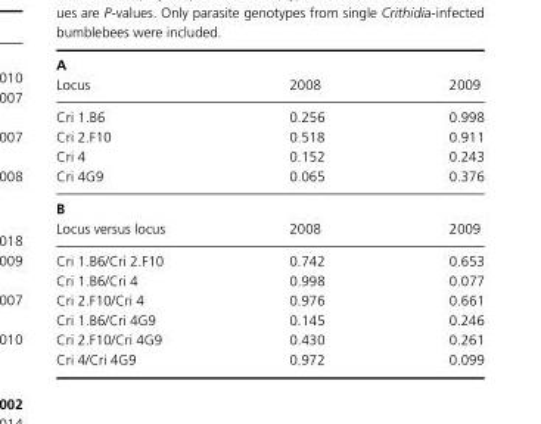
<table><thead><tr><td colspan="3">A</td></tr><tr><td>Locus</td><td>2008</td><td>2009</td></tr></thead><tbody><tr><td>Cri 1.B6</td><td>0.256</td><td>0.998</td></tr><tr><td>Cri 2.F10</td><td>0.518</td><td>0.911</td></tr><tr><td>Cri 4</td><td>0.152</td><td>0.243</td></tr><tr><td>Cri 4G9</td><td>0.065</td><td>0.376</td></tr><tr><td colspan="3">B</td></tr><tr><td>Locus versus locus</td><td>2008</td><td>2009</td></tr><tr><td>Cri 1.B6/Cri 2.F10</td><td>0.742</td><td>0.653</td></tr><tr><td>Cri 1.B6/Cri 4</td><td>0.998</td><td>0.077</td></tr><tr><td>Cri 2.F10/Cri 4</td><td>0.976</td><td>0.661</td></tr><tr><td>Cri 1.B6/Cri 4G9</td><td>0.145</td><td>0.246</td></tr><tr><td>Cri 2.F10/Cri 4G9</td><td>0.430</td><td>0.261</td></tr><tr><td>Cri 4/Cri 4G9</td><td>0.972</td><td>0.099</td></tr></tbody></table>